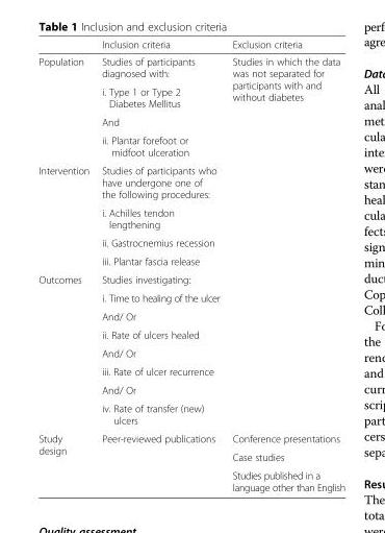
<table><thead><tr><td></td><td>Inclusion criteria</td><td>Exclusion criteria</td></tr></thead><tbody><tr><td rowspan="4">Population</td><td>Studies of participants diagnosed with:</td><td rowspan="4">Studies in which the data was not separated for participants with and without diabetes</td></tr><tr><td>i. Type 1 or Type 2 Diabetes Mellitus</td></tr><tr><td>And</td></tr><tr><td>ii. Plantar forefoot or midfoot ulceration</td></tr><tr><td rowspan="4">Intervention</td><td>Studies of participants who have undergone one of the following procedures:</td><td rowspan="4"></td></tr><tr><td>i. Achilles tendon lengthening</td></tr><tr><td>ii. Gastrocnemius recession</td></tr><tr><td>iii. Plantar fascia release</td></tr><tr><td rowspan="8">Outcomes</td><td>Studies investigating:</td><td rowspan="8"></td></tr><tr><td>i. Time to healing of the ulcer</td></tr><tr><td>And/ Or</td></tr><tr><td>ii. Rate of ulcers healed</td></tr><tr><td>And/ Or</td></tr><tr><td>iii. Rate of ulcer recurrence</td></tr><tr><td>And/ Or</td></tr><tr><td>iv. Rate of transfer (new) ulcers</td></tr><tr><td rowspan="3">Study design</td><td rowspan="3">Peer-reviewed publications</td><td>Conference presentations</td></tr><tr><td>Case studies</td></tr><tr><td>Studies published in a language other than English</td></tr></tbody></table>